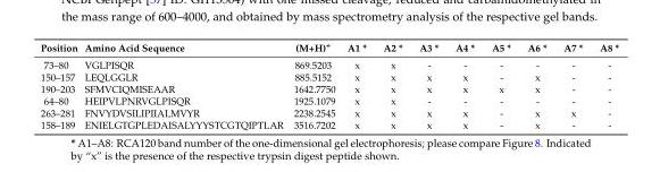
<table><thead><tr><td>Position</td><td>Amino Acid Sequence</td><td>(M+H)<sup>+</sup></td><td>A1 *</td><td>A2 *</td><td>A3 *</td><td>A4 *</td><td>A5 *</td><td>A6 *</td><td>A7 *</td><td>A8 *</td></tr></thead><tbody><tr><td>73–80</td><td>VGLPISQR</td><td>869.5203</td><td>x</td><td>x</td><td>-</td><td>-</td><td>-</td><td>-</td><td>-</td><td>-</td></tr><tr><td>150–157</td><td>LEQLGGLR</td><td>885.5152</td><td>x</td><td>x</td><td>x</td><td>x</td><td>-</td><td>x</td><td>-</td><td>-</td></tr><tr><td>190–203</td><td>SFMVCIQMISEAAR</td><td>1642.7750</td><td>x</td><td>x</td><td>x</td><td>x</td><td>x</td><td>x</td><td>-</td><td>-</td></tr><tr><td>64–80</td><td>HEIPVLPNRVGLPISQR</td><td>1925.1079</td><td>x</td><td>x</td><td>-</td><td>-</td><td>-</td><td>-</td><td>-</td><td>-</td></tr><tr><td>263–281</td><td>FNVYDVSILIPIIALMVYR</td><td>2238.2545</td><td>x</td><td>x</td><td>x</td><td>x</td><td>-</td><td>x</td><td>x</td><td>-</td></tr><tr><td>158–189</td><td>ENIELGTGPLEDAISALYYYSTCGTQIPTLAR</td><td>3516.7202</td><td>x</td><td>x</td><td>x</td><td>x</td><td>-</td><td>x</td><td>-</td><td>-</td></tr></tbody></table>